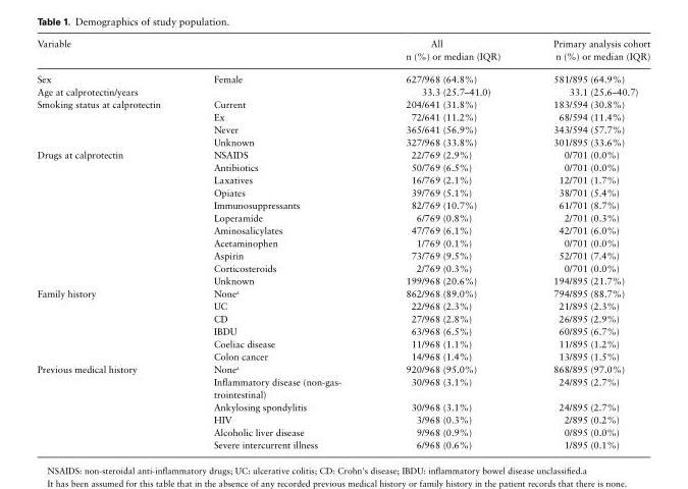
<table><thead><tr><td>Variable</td><td></td><td>All n (%) or median (IQR)</td><td>Primary analysis cohort n (%) or median (IQR)</td></tr></thead><tbody><tr><td>Sex</td><td>Female</td><td>627/968 (64.8%)</td><td>581/895 (64.9%)</td></tr><tr><td>Age at calprotectin/years</td><td></td><td>33.3 (25.7–41.0)</td><td>33.1 (25.6–40.7)</td></tr><tr><td rowspan="4">Smoking status at calprotectin</td><td>Current</td><td>204/641 (31.8%)</td><td>183/594 (30.8%)</td></tr><tr><td>Ex</td><td>72/641 (11.2%)</td><td>68/594 (11.4%)</td></tr><tr><td>Never</td><td>365/641 (56.9%)</td><td>343/594 (57.7%)</td></tr><tr><td>Unknown</td><td>327/968 (33.8%)</td><td>301/895 (33.6%)</td></tr><tr><td rowspan="11">Drugs at calprotectin</td><td>NSAIDS</td><td>22/769 (2.9%)</td><td>0/701 (0.0%)</td></tr><tr><td>Antibiotics</td><td>50/769 (6.5%)</td><td>0/701 (0.0%)</td></tr><tr><td>Laxatives</td><td>16/769 (2.1%)</td><td>12/701 (1.7%)</td></tr><tr><td>Opiates</td><td>39/769 (5.1%)</td><td>38/701 (5.4%)</td></tr><tr><td>Immunosuppressants</td><td>82/769 (10.7%)</td><td>61/701 (8.7%)</td></tr><tr><td>Loperamide</td><td>6/769 (0.8%)</td><td>2/701 (0.3%)</td></tr><tr><td>Aminosalicylates</td><td>47/769 (6.1%)</td><td>42/701 (6.0%)</td></tr><tr><td>Acetaminophen</td><td>1/769 (0.1%)</td><td>0/701 (0.0%)</td></tr><tr><td>Aspirin</td><td>73/769 (9.5%)</td><td>52/701 (7.4%)</td></tr><tr><td>Corticosteroids</td><td>2/769 (0.3%)</td><td>0/701 (0.0%)</td></tr><tr><td>Unknown</td><td>199/968 (20.6%)</td><td>194/895 (21.7%)</td></tr><tr><td rowspan="6">Family history</td><td>None<sup>a</sup></td><td>862/968 (89.0%)</td><td>794/895 (88.7%)</td></tr><tr><td>UC</td><td>22/968 (2.3%)</td><td>21/895 (2.3%)</td></tr><tr><td>CD</td><td>27/968 (2.8%)</td><td>26/895 (2.9%)</td></tr><tr><td>IBDU</td><td>63/968 (6.5%)</td><td>60/895 (6.7%)</td></tr><tr><td>Coeliac disease</td><td>11/968 (1.1%)</td><td>11/895 (1.2%)</td></tr><tr><td>Colon cancer</td><td>14/968 (1.4%)</td><td>13/895 (1.5%)</td></tr><tr><td rowspan="6">Previous medical history</td><td>None<sup>a</sup></td><td>920/968 (95.0%)</td><td>868/895 (97.0%)</td></tr><tr><td>Inflammatory disease (non-gas- trointestinal)</td><td>30/968 (3.1%)</td><td>24/895 (2.7%)</td></tr><tr><td>Ankylosing spondylitis</td><td>30/968 (3.1%)</td><td>24/895 (2.7%)</td></tr><tr><td>HIV</td><td>3/968 (0.3%)</td><td>2/895 (0.2%)</td></tr><tr><td>Alcoholic liver disease</td><td>9/968 (0.9%)</td><td>0/895 (0.0%)</td></tr><tr><td>Severe intercurrent illness</td><td>6/968 (0.6%)</td><td>1/895 (0.1%)</td></tr></tbody></table>